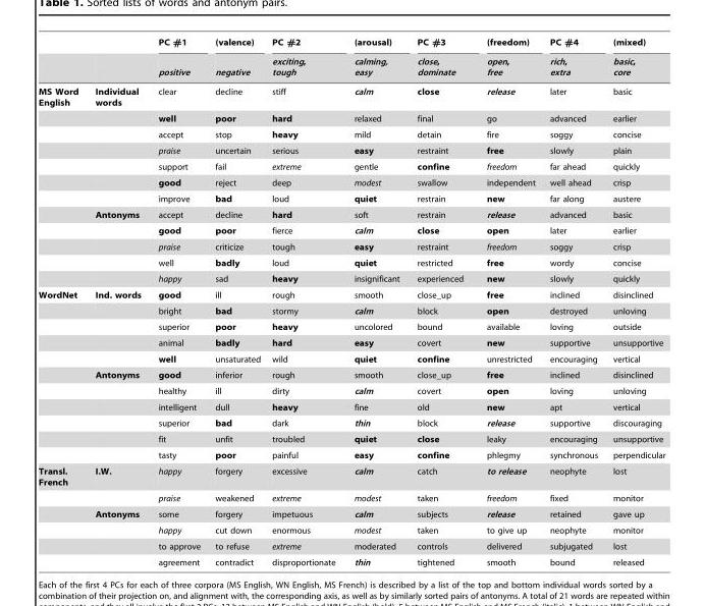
<table><thead><tr><td rowspan="2"></td><td rowspan="2"></td><td rowspan="2">PC #1 positive</td><td rowspan="2">(valence) negative</td><td rowspan="2">PC #2 exciting, tough</td><td rowspan="2">(arousal) calming, easy</td><td rowspan="2">PC #3 close, dominate</td><td rowspan="2">(freedom) open, free</td><td rowspan="2">PC #4 rich, extra</td><td rowspan="2">(mixed) basic, core</td></tr><tr></tr></thead><tbody><tr><td rowspan="12">MS Word English</td><td>Individual words</td><td>clear</td><td>decline</td><td>stiff</td><td>calm</td><td>close</td><td>release</td><td>later</td><td>basic</td></tr><tr><td></td><td>well</td><td>poor</td><td>hard</td><td>relaxed</td><td>final</td><td>go</td><td>advanced</td><td>earlier</td></tr><tr><td></td><td>accept</td><td>stop</td><td>heavy</td><td>mild</td><td>detain</td><td>fire</td><td>soggy</td><td>concise</td></tr><tr><td></td><td>praise</td><td>uncertain</td><td>serious</td><td>easy</td><td>restraint</td><td>free</td><td>slowly</td><td>plain</td></tr><tr><td></td><td>support</td><td>fail</td><td>extreme</td><td>gentle</td><td>confine</td><td>freedom</td><td>far ahead</td><td>quickly</td></tr><tr><td></td><td>good</td><td>reject</td><td>deep</td><td>modest</td><td>swallow</td><td>independent</td><td>well ahead</td><td>crisp</td></tr><tr><td></td><td>improve</td><td>bad</td><td>loud</td><td>quiet</td><td>restrain</td><td>new</td><td>far along</td><td>austere</td></tr><tr><td>Antonyms</td><td>accept</td><td>decline</td><td>hard</td><td>soft</td><td>restrain</td><td>release</td><td>advanced</td><td>basic</td></tr><tr><td></td><td>good</td><td>poor</td><td>fierce</td><td>calm</td><td>close</td><td>open</td><td>later</td><td>earlier</td></tr><tr><td></td><td>praise</td><td>criticize</td><td>tough</td><td>easy</td><td>restraint</td><td>freedom</td><td>soggy</td><td>crisp</td></tr><tr><td></td><td>well</td><td>badly</td><td>loud</td><td>quiet</td><td>restricted</td><td>free</td><td>wordy</td><td>concise</td></tr><tr><td></td><td>happy</td><td>sad</td><td>heavy</td><td>insignificant</td><td>experienced</td><td>new</td><td>slowly</td><td>quickly</td></tr><tr><td rowspan="11">WordNet</td><td>Ind. words</td><td>good</td><td>ill</td><td>rough</td><td>smooth</td><td>close_up</td><td>free</td><td>inclined</td><td>disinclined</td></tr><tr><td></td><td>bright</td><td>bad</td><td>stormy</td><td>calm</td><td>block</td><td>open</td><td>destroyed</td><td>unloving</td></tr><tr><td></td><td>superior</td><td>poor</td><td>heavy</td><td>uncolored</td><td>bound</td><td>available</td><td>loving</td><td>outside</td></tr><tr><td></td><td>animal</td><td>badly</td><td>hard</td><td>easy</td><td>covert</td><td>new</td><td>supportive</td><td>unsupportive</td></tr><tr><td></td><td>well</td><td>unsaturated</td><td>wild</td><td>quiet</td><td>confine</td><td>unrestricted</td><td>encouraging</td><td>vertical</td></tr><tr><td>Antonyms</td><td>good</td><td>inferior</td><td>rough</td><td>smooth</td><td>close_up</td><td>free</td><td>inclined</td><td>disinclined</td></tr><tr><td></td><td>healthy</td><td>ill</td><td>dirty</td><td>calm</td><td>covert</td><td>open</td><td>loving</td><td>unloving</td></tr><tr><td></td><td>intelligent</td><td>dull</td><td>heavy</td><td>fine</td><td>old</td><td>new</td><td>apt</td><td>vertical</td></tr><tr><td></td><td>superior</td><td>bad</td><td>dark</td><td>thin</td><td>block</td><td>release</td><td>supportive</td><td>discouraging</td></tr><tr><td></td><td>fit</td><td>unfit</td><td>troubled</td><td>quiet</td><td>close</td><td>leaky</td><td>encouraging</td><td>unsupportive</td></tr><tr><td></td><td>tasty</td><td>poor</td><td>painful</td><td>easy</td><td>confine</td><td>phlegmy</td><td>synchronous</td><td>perpendicular</td></tr><tr><td rowspan="6">Transl. French</td><td>I.W.</td><td>happy</td><td>forgery</td><td>excessive</td><td>calm</td><td>catch</td><td>to release</td><td>neophyte</td><td>lost</td></tr><tr><td></td><td>praise</td><td>weakened</td><td>extreme</td><td>modest</td><td>taken</td><td>freedom</td><td>fixed</td><td>monitor</td></tr><tr><td>Antonyms</td><td>some</td><td>forgery</td><td>impetuous</td><td>calm</td><td>subjects</td><td>release</td><td>retained</td><td>gave up</td></tr><tr><td></td><td>happy</td><td>cut down</td><td>enormous</td><td>modest</td><td>taken</td><td>to give up</td><td>neophyte</td><td>monitor</td></tr><tr><td></td><td>to approve</td><td>to refuse</td><td>extreme</td><td>moderated</td><td>controls</td><td>delivered</td><td>subjugated</td><td>lost</td></tr><tr><td></td><td>agreement</td><td>contradict</td><td>disproportionate</td><td>thin</td><td>tightened</td><td>smooth</td><td>bound</td><td>released</td></tr></tbody></table>